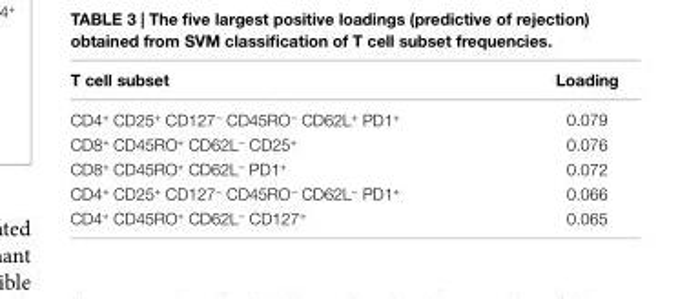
<table><thead><tr><td>T cell subset</td><td>loading</td></tr></thead><tbody><tr><td>CD4<sup>+</sup> CD25<sup>+</sup> CD127<sup>−</sup> CD45RO<sup>−</sup> CD62L<sup>+</sup> PD1<sup>+</sup></td><td>0.079</td></tr><tr><td>CD8<sup>+</sup> CD45RO<sup>+</sup> CD62L<sup>−</sup> CD25<sup>+</sup></td><td>0.076</td></tr><tr><td>CD8<sup>+</sup> CD45RO<sup>+</sup> CD62L<sup>−</sup> PD1<sup>+</sup></td><td>0.072</td></tr><tr><td>CD4<sup>+</sup> CD25<sup>+</sup> CD127<sup>−</sup> CD45RO<sup>−</sup> CD62L<sup>−</sup> PD1<sup>+</sup></td><td>0.066</td></tr><tr><td>CD4<sup>+</sup> CD45RO<sup>+</sup> CD62L<sup>−</sup> CD127<sup>+</sup></td><td>0.065</td></tr></tbody></table>